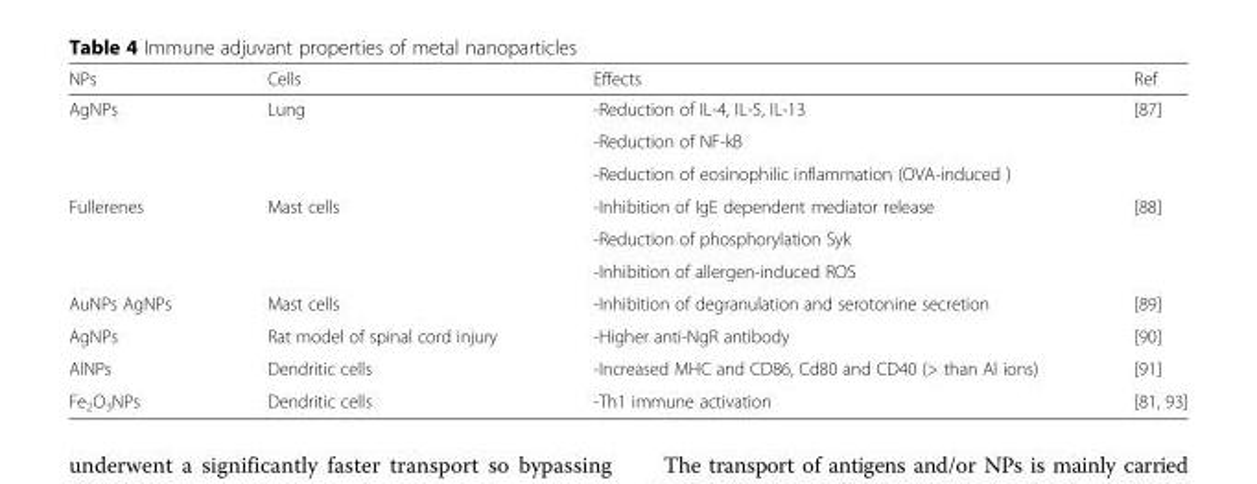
<table><thead><tr><td>NPs</td><td>Cells</td><td>Effects</td><td>Ref</td></tr></thead><tbody><tr><td rowspan="3">AgNPs</td><td rowspan="3">Lung</td><td>-Reduction of IL-4, IL-5, IL-13</td><td rowspan="3">[87]</td></tr><tr><td>-Reduction of NF-kB</td></tr><tr><td>-Reduction of eosinophilic inflammation (OVA-induced )</td></tr><tr><td rowspan="3">Fullerenes</td><td rowspan="3">Mast cells</td><td>-Inhibition of IgE dependent mediator release</td><td rowspan="3">[88]</td></tr><tr><td>-Reduction of phosphorylation Syk</td></tr><tr><td>-Inhibition of allergen-induced ROS</td></tr><tr><td>AuNPs AgNPs</td><td>Mast cells</td><td>-Inhibition of degranulation and serotonine secretion</td><td>[89]</td></tr><tr><td>AgNPs</td><td>Rat model of spinal cord injury</td><td>-Higher anti-NgR antibody</td><td>[90]</td></tr><tr><td>AlNPs</td><td>Dendritic cells</td><td>-Increased MHC and CD86, Cd80 and CD40 (&gt; than Al ions)</td><td>[91]</td></tr><tr><td>Fe<sub>2</sub>O<sub>3</sub>NPs</td><td>Dendritic cells</td><td>-Th1 immune activation</td><td>[81, 93]</td></tr></tbody></table>